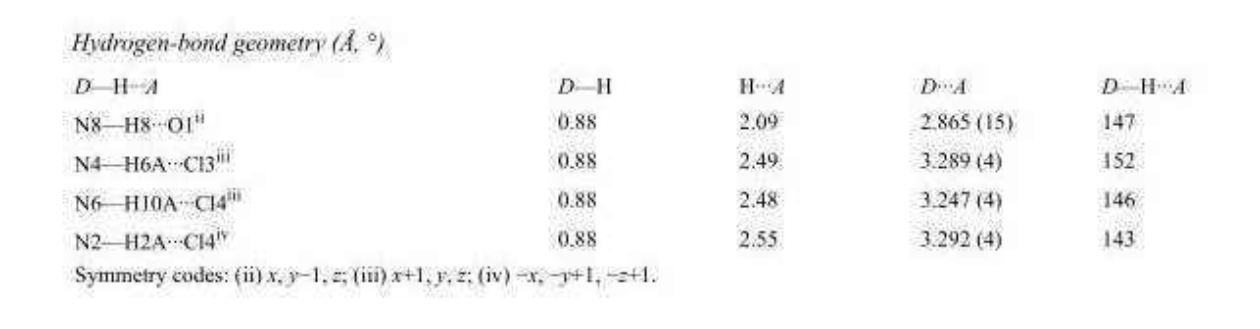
<table><tbody><tr><td>D—H···A</td><td>D—H</td><td>H···A</td><td>D···A</td><td>D—H···A</td></tr><tr><td>N8—H8···O1<sup>ii</sup></td><td>0.88</td><td>2.09</td><td>2.865 (15)</td><td>147</td></tr><tr><td>N4—H6A···Cl3<sup>iii</sup></td><td>0.88</td><td>2.49</td><td>3.289 (4)</td><td>152</td></tr><tr><td>N6—H10A···Cl4<sup>iii</sup></td><td>0.88</td><td>2.48</td><td>3.247 (4)</td><td>146</td></tr><tr><td>N2—H2A···Cl4<sup>iv</sup></td><td>0.88</td><td>2.55</td><td>3.292 (4)</td><td>143</td></tr></tbody></table>